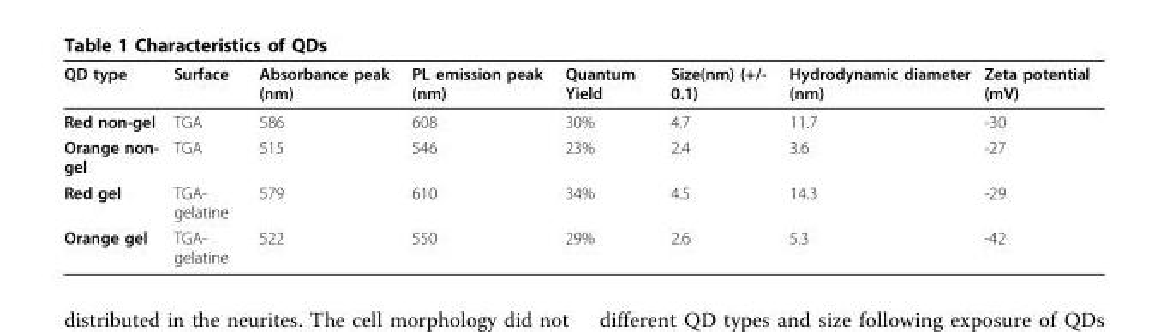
<table><thead><tr><td>QD type</td><td>Surface</td><td>Absorbance peak (nm)</td><td>PL emission peak (nm)</td><td>Quantum Yield</td><td>Size(nm) (+/- 0.1)</td><td>Hydrodynamic diameter (nm)</td><td>Zeta potential (mV)</td></tr></thead><tbody><tr><td>Red non-gel</td><td>TGA</td><td>586</td><td>608</td><td>30%</td><td>4.7</td><td>11.7</td><td>-30</td></tr><tr><td>Orange non- gel</td><td>TGA</td><td>515</td><td>546</td><td>23%</td><td>2.4</td><td>3.6</td><td>-27</td></tr><tr><td>Red gel</td><td>TGA- gelatine</td><td>579</td><td>610</td><td>34%</td><td>4.5</td><td>14.3</td><td>-29</td></tr><tr><td>Orange gel</td><td>TGA- gelatine</td><td>522</td><td>550</td><td>29%</td><td>2.6</td><td>5.3</td><td>-42</td></tr></tbody></table>